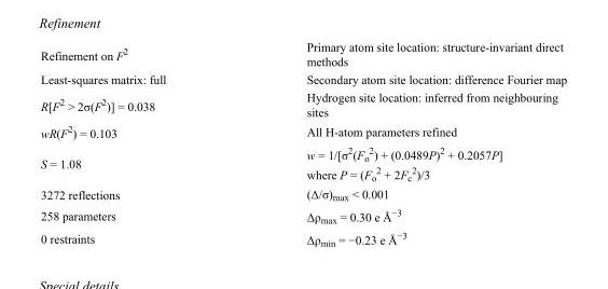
<table><tbody><tr><td>Refinement on F<sup>2</sup></td><td>Primary atom site location: structure-invariant direct methods</td></tr><tr><td>Least-squares matrix: full</td><td>Secondary atom site location: difference Fourier map</td></tr><tr><td>R[F<sup>2</sup> &gt; 2σ(F<sup>2</sup>)] = 0.038</td><td>Hydrogen site location: inferred from neighbouring sites</td></tr><tr><td>wR(F<sup>2</sup>) = 0.103</td><td>All H-atom parameters refined</td></tr><tr><td>S = 1.08</td><td>w = 1/[σ<sup>2</sup>(F<sub>o</sub> <sup>2</sup>) + (0.0489P)<sup>2</sup> + 0.2057P] where P = (F<sub>o</sub> <sup>2</sup> + 2F<sub>c</sub> <sup>2</sup>)/3</td></tr><tr><td>3272 reflections</td><td>(Δ/σ)<sub>max</sub> &lt; 0.001</td></tr><tr><td>258 parameters</td><td>Δρ<sub>max</sub> = 0.30 e Å<sup>−3</sup></td></tr><tr><td>0 restraints</td><td>Δρ<sub>min</sub> = −0.23 e Å<sup>−3</sup></td></tr></tbody></table>